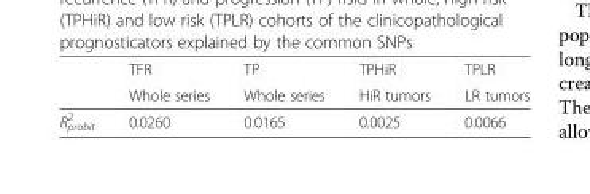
<table><thead><tr><td rowspan="2"></td><td rowspan="2">TFR Whole series</td><td rowspan="2">TP Whole series</td><td rowspan="2">TPHiR HiR tumors</td><td rowspan="2">TPLR LR tumors</td></tr><tr></tr></thead><tbody><tr><td>R<sub>probit</sub> <sup>2</sup></td><td>0.0260</td><td>0.0165</td><td>0.0025</td><td>0.0066</td></tr></tbody></table>